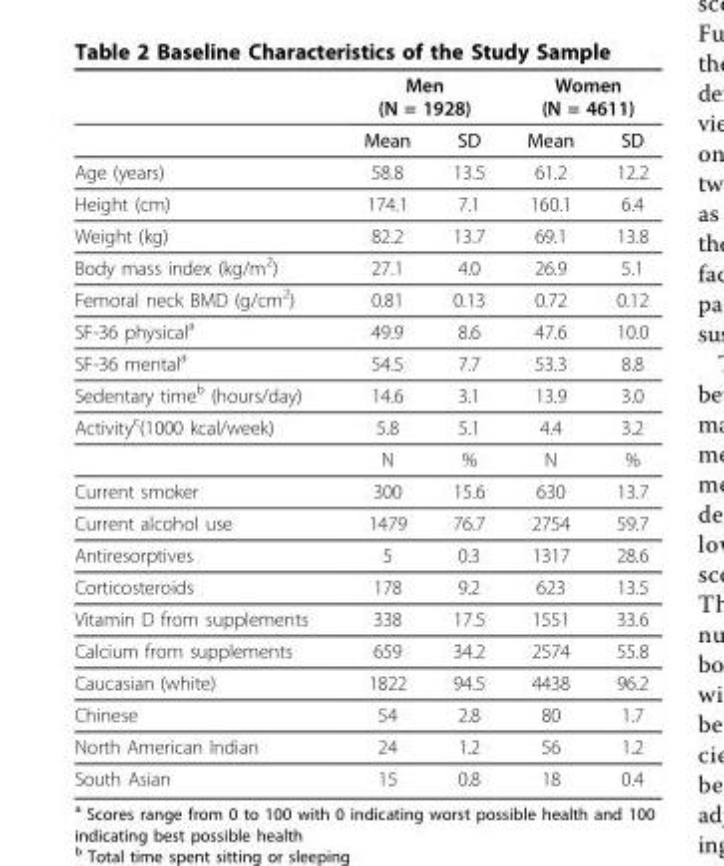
<table><thead><tr><td rowspan="2"></td><td colspan="2">Men (N = 1928)</td><td colspan="2">Women (N = 4611)</td></tr><tr><td>Mean</td><td>SD</td><td>Mean</td><td>SD</td></tr></thead><tbody><tr><td>Age (years)</td><td>58.8</td><td>13.5</td><td>61.2</td><td>12.2</td></tr><tr><td>Height (cm)</td><td>174.1</td><td>7.1</td><td>160.1</td><td>6.4</td></tr><tr><td>Weight (kg)</td><td>82.2</td><td>13.7</td><td>69.1</td><td>13.8</td></tr><tr><td>Body mass index (kg/m<sup>2</sup>)</td><td>27.1</td><td>4.0</td><td>26.9</td><td>5.1</td></tr><tr><td>Femoral neck BMD (g/cm<sup>2</sup>)</td><td>0.81</td><td>0.13</td><td>0.72</td><td>0.12</td></tr><tr><td>SF-36 physical<sup>a</sup></td><td>49.9</td><td>8.6</td><td>47.6</td><td>10.0</td></tr><tr><td>SF-36 mental<sup>a</sup></td><td>54.5</td><td>7.7</td><td>53.3</td><td>8.8</td></tr><tr><td>Sedentary time<sup>b</sup> (hours/day)</td><td>14.6</td><td>3.1</td><td>13.9</td><td>3.0</td></tr><tr><td rowspan="2">Activity<sup>c</sup>(1000 kcal/week)</td><td>5.8</td><td>5.1</td><td>4.4</td><td>3.2</td></tr><tr><td>N</td><td>%</td><td>N</td><td>%</td></tr><tr><td>Current smoker</td><td>300</td><td>15.6</td><td>630</td><td>13.7</td></tr><tr><td>Current alcohol use</td><td>1479</td><td>76.7</td><td>2754</td><td>59.7</td></tr><tr><td>Antiresorptives</td><td>5</td><td>0.3</td><td>1317</td><td>28.6</td></tr><tr><td>Corticosteroids</td><td>178</td><td>9.2</td><td>623</td><td>13.5</td></tr><tr><td>Vitamin D from supplements</td><td>338</td><td>17.5</td><td>1551</td><td>33.6</td></tr><tr><td>Calcium from supplements</td><td>659</td><td>34.2</td><td>2574</td><td>55.8</td></tr><tr><td>Caucasian (white)</td><td>1822</td><td>94.5</td><td>4438</td><td>96.2</td></tr><tr><td>Chinese</td><td>54</td><td>2.8</td><td>80</td><td>1.7</td></tr><tr><td>North American Indian</td><td>24</td><td>1.2</td><td>56</td><td>1.2</td></tr><tr><td>South Asian</td><td>15</td><td>0.8</td><td>18</td><td>0.4</td></tr></tbody></table>